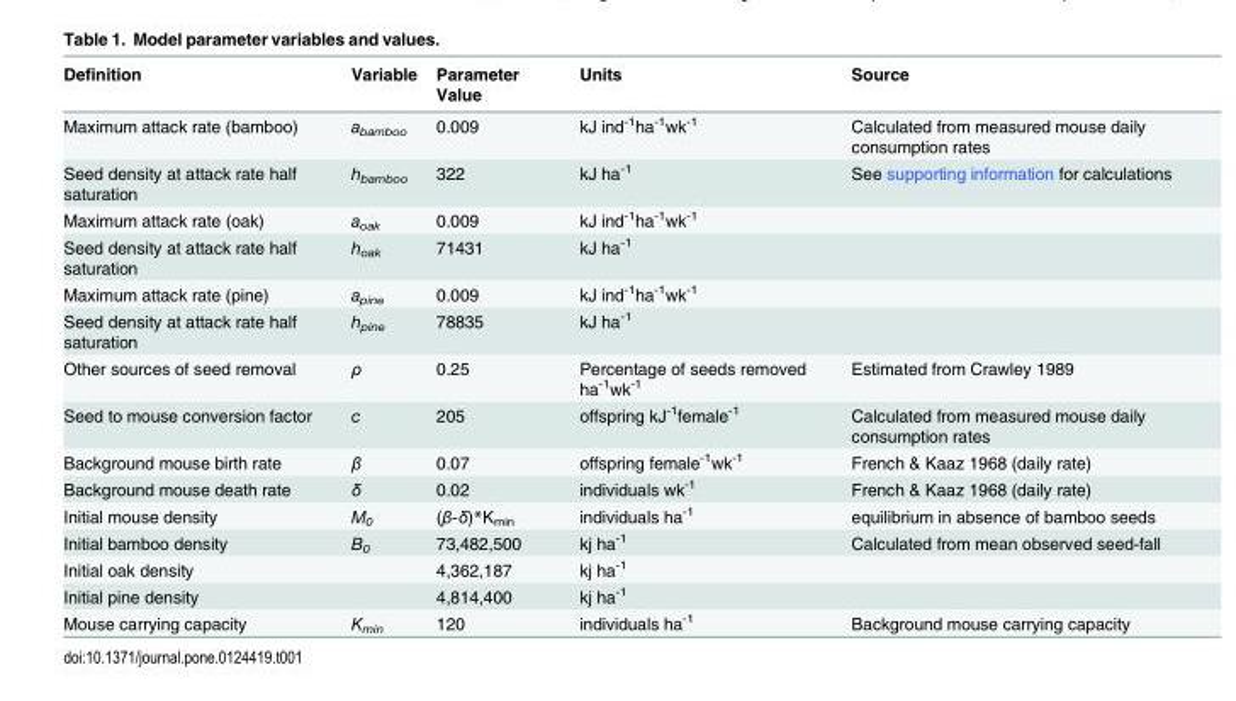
<table><thead><tr><td>Definition</td><td>Variable</td><td>Parameter Value</td><td>Units</td><td>Source</td></tr></thead><tbody><tr><td>Maximum attack rate (bamboo)</td><td>a<sub>bamboo</sub></td><td>0.009</td><td>kJ ind<sup>-1</sup>ha<sup>-1</sup>wk<sup>-1</sup></td><td>Calculated from measured mouse daily consumption rates</td></tr><tr><td>Seed density at attack rate half saturation</td><td>h<sub>bamboo</sub></td><td>322</td><td>kJ ha<sup>-1</sup></td><td>See supporting information for calculations</td></tr><tr><td>Maximum attack rate (oak)</td><td>a<sub>oak</sub></td><td>0.009</td><td>kJ ind<sup>-1</sup>ha<sup>-1</sup>wk<sup>-1</sup></td><td></td></tr><tr><td>Seed density at attack rate half saturation</td><td>h<sub>oak</sub></td><td>71431</td><td>kJ ha<sup>-1</sup></td><td></td></tr><tr><td>Maximum attack rate (pine)</td><td>a<sub>pine</sub></td><td>0.009</td><td>kJ ind<sup>-1</sup>ha<sup>-1</sup>wk<sup>-1</sup></td><td></td></tr><tr><td>Seed density at attack rate half saturation</td><td>h<sub>pine</sub></td><td>78835</td><td>kJ ha<sup>-1</sup></td><td></td></tr><tr><td>Other sources of seed removal</td><td>ρ</td><td>0.25</td><td>Percentage of seeds removed ha<sup>-1</sup>wk<sup>-1</sup></td><td>Estimated from Crawley 1989</td></tr><tr><td>Seed to mouse conversion factor</td><td>c</td><td>205</td><td>offspring kJ<sup>-1</sup>female<sup>-1</sup></td><td>Calculated from measured mouse daily consumption rates</td></tr><tr><td>Background mouse birth rate</td><td>β</td><td>0.07</td><td>offspring female<sup>-1</sup>wk<sup>-1</sup></td><td>French &amp; Kaaz 1968 (daily rate)</td></tr><tr><td>Background mouse death rate</td><td>δ</td><td>0.02</td><td>individuals wk<sup>-1</sup></td><td>French &amp; Kaaz 1968 (daily rate)</td></tr><tr><td>Initial mouse density</td><td>M<sub>0</sub></td><td>(β-δ)*K<sub>min</sub></td><td>individuals ha<sup>-1</sup></td><td>equilibrium in absence of bamboo seeds</td></tr><tr><td>Initial bamboo density</td><td>B<sub>0</sub></td><td>73,482,500</td><td>kj ha<sup>-1</sup></td><td>Calculated from mean observed seed-fall</td></tr><tr><td>Initial oak density</td><td></td><td>4,362,187</td><td>kj ha<sup>-1</sup></td><td></td></tr><tr><td>Initial pine density</td><td></td><td>4,814,400</td><td>kj ha<sup>-1</sup></td><td></td></tr><tr><td>Mouse carrying capacity</td><td>K<sub>min</sub></td><td>120</td><td>individuals ha<sup>-1</sup></td><td>Background mouse carrying capacity</td></tr></tbody></table>